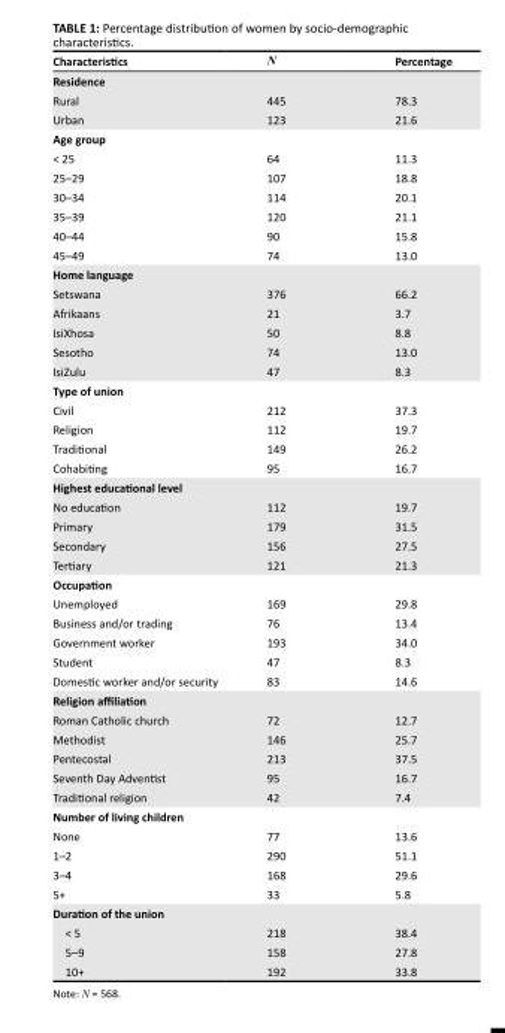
<table><thead><tr><td>Characteristics</td><td>N</td><td>Percentage</td></tr></thead><tbody><tr><td colspan="3">Residence</td></tr><tr><td>Rural</td><td>445</td><td>78.3</td></tr><tr><td>Urban</td><td>123</td><td>21.6</td></tr><tr><td colspan="3">Age group</td></tr><tr><td>&lt; 25</td><td>64</td><td>11.3</td></tr><tr><td>25–29</td><td>107</td><td>18.8</td></tr><tr><td>30–34</td><td>114</td><td>20.1</td></tr><tr><td>35–39</td><td>120</td><td>21.1</td></tr><tr><td>40–44</td><td>90</td><td>15.8</td></tr><tr><td>45–49</td><td>74</td><td>13.0</td></tr><tr><td colspan="3">Home language</td></tr><tr><td>Setswana</td><td>376</td><td>66.2</td></tr><tr><td>Afrikaans</td><td>21</td><td>3.7</td></tr><tr><td>IsiXhosa</td><td>50</td><td>8.8</td></tr><tr><td>Sesotho</td><td>74</td><td>13.0</td></tr><tr><td>IsiZulu</td><td>47</td><td>8.3</td></tr><tr><td colspan="3">Type of union</td></tr><tr><td>Civil</td><td>212</td><td>37.3</td></tr><tr><td>Religion</td><td>112</td><td>19.7</td></tr><tr><td>Traditional</td><td>149</td><td>26.2</td></tr><tr><td>Cohabiting</td><td>95</td><td>16.7</td></tr><tr><td colspan="3">Highest educational level</td></tr><tr><td>No education</td><td>112</td><td>19.7</td></tr><tr><td>Primary</td><td>179</td><td>31.5</td></tr><tr><td>Secondary</td><td>156</td><td>27.5</td></tr><tr><td>Tertiary</td><td>121</td><td>21.3</td></tr><tr><td colspan="3">Occupation</td></tr><tr><td>Unemployed</td><td>169</td><td>29.8</td></tr><tr><td>Business and/or trading</td><td>76</td><td>13.4</td></tr><tr><td>Government worker</td><td>193</td><td>34.0</td></tr><tr><td>Student</td><td>47</td><td>8.3</td></tr><tr><td>Domestic worker and/or security</td><td>83</td><td>14.6</td></tr><tr><td colspan="3">Religion affiliation</td></tr><tr><td>Roman Catholic church</td><td>72</td><td>12.7</td></tr><tr><td>Methodist</td><td>146</td><td>25.7</td></tr><tr><td>Pentecostal</td><td>213</td><td>37.5</td></tr><tr><td>Seventh Day Adventist</td><td>95</td><td>16.7</td></tr><tr><td>Traditional religion</td><td>42</td><td>7.4</td></tr><tr><td colspan="3">Number of living children</td></tr><tr><td>None</td><td>77</td><td>13.6</td></tr><tr><td>1–2</td><td>290</td><td>51.1</td></tr><tr><td>3–4</td><td>168</td><td>29.6</td></tr><tr><td>5+</td><td>33</td><td>5.8</td></tr><tr><td colspan="3">Duration of the union</td></tr><tr><td>&lt; 5</td><td>218</td><td>38.4</td></tr><tr><td>5–9</td><td>158</td><td>27.8</td></tr><tr><td>10+</td><td>192</td><td>33.8</td></tr></tbody></table>